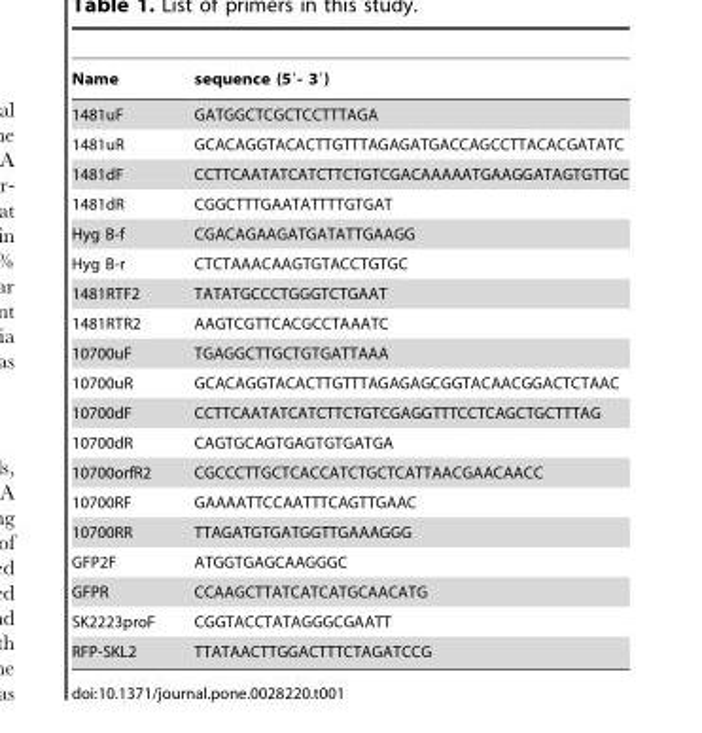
<table><thead><tr><td>Name</td><td>sequence (5′- 3′)</td></tr></thead><tbody><tr><td>1481uF</td><td>GATGGCTCGCTCCTTTAGA</td></tr><tr><td>1481uR</td><td>GCACAGGTACACTTGTTTAGAGATGACCAGCCTTACACGATATC</td></tr><tr><td>1481dF</td><td>CCTTCAATATCATCTTCTGTCGACAAAAATGAAGGATAGTGTTGC</td></tr><tr><td>1481dR</td><td>CGGCTTTGAATATTTTGTGAT</td></tr><tr><td>Hyg B-f</td><td>CGACAGAAGATGATATTGAAGG</td></tr><tr><td>Hyg B-r</td><td>CTCTAAACAAGTGTACCTGTGC</td></tr><tr><td>1481RTF2</td><td>TATATGCCCTGGGTCTGAAT</td></tr><tr><td>1481RTR2</td><td>AAGTCGTTCACGCCTAAATC</td></tr><tr><td>10700uF</td><td>TGAGGCTTGCTGTGATTAAA</td></tr><tr><td>10700uR</td><td>GCACAGGTACACTTGTTTAGAGAGCGGTACAACGGACTCTAAC</td></tr><tr><td>10700dF</td><td>CCTTCAATATCATCTTCTGTCGAGGTTTCCTCAGCTGCTTTAG</td></tr><tr><td>10700dR</td><td>CAGTGCAGTGAGTGTGATGA</td></tr><tr><td>10700orfR2</td><td>CGCCCTTGCTCACCATCTGCTCATTAACGAACAACC</td></tr><tr><td>10700RF</td><td>GAAAATTCCAATTTCAGTTGAAC</td></tr><tr><td>10700RR</td><td>TTAGATGTGATGGTTGAAAGGG</td></tr><tr><td>GFP2F</td><td>ATGGTGAGCAAGGGC</td></tr><tr><td>GFPR</td><td>CCAAGCTTATCATCATGCAACATG</td></tr><tr><td>SK2223proF</td><td>CGGTACCTATAGGGCGAATT</td></tr><tr><td>RFP-SKL2</td><td>TTATAACTTGGACTTTCTAGATCCG</td></tr></tbody></table>